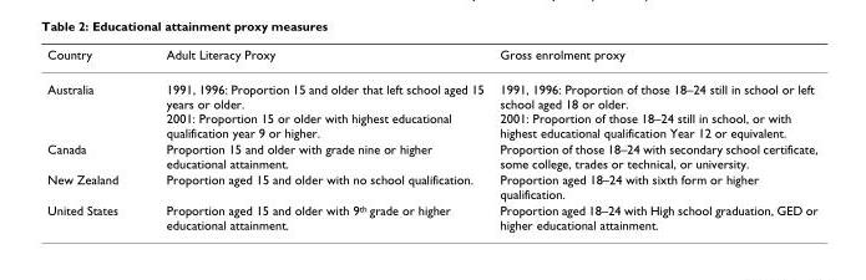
<table><thead><tr><td>Country</td><td>Adult Literacy Proxy</td><td>Gross enrolment proxy</td></tr></thead><tbody><tr><td>Australia</td><td>1991, 1996: Proportion 15 and older that left school aged 15 years or older. 2001: Proportion 15 or older with highest educational qualification year 9 or higher.</td><td>1991, 1996: Proportion of those 18–24 still in school or left school aged 18 or older. 2001: Proportion of those 18–24 still in school, or with highest educational qualification Year 12 or equivalent.</td></tr><tr><td>Canada</td><td>Proportion 15 and older with grade nine or higher educational attainment.</td><td>Proportion of those 18–24 with secondary school certificate, some college, trades or technical, or university.</td></tr><tr><td>New Zealand</td><td>Proportion aged 15 and older with no school qualification.</td><td>Proportion aged 18–24 with sixth form or higher qualification.</td></tr><tr><td>United States</td><td>Proportion aged 15 and older with 9<sup>th</sup> grade or higher educational attainment.</td><td>Proportion aged 18–24 with High school graduation, GED or higher educational attainment.</td></tr></tbody></table>